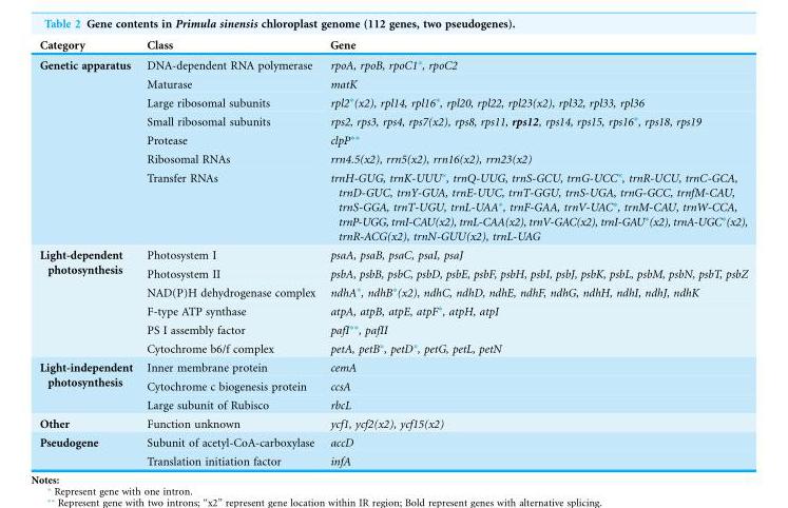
<table><thead><tr><td>Category</td><td>Class</td><td>Gene</td></tr></thead><tbody><tr><td rowspan="7">Genetic apparatus</td><td>DNA-dependent RNA polymerase</td><td>rpoA, rpoB, rpoC1*, rpoC2</td></tr><tr><td>Maturase</td><td>matK</td></tr><tr><td>Large ribosomal subunits</td><td>rpl2*(x2), rpl14, rpl16*, rpl20, rpl22, rpl23(x2), rpl32, rpl33, rpl36</td></tr><tr><td>Small ribosomal subunits</td><td>rps2, rps3, rps4, rps7(x2), rps8, rps11, rps12, rps14, rps15, rps16*, rps18, rps19</td></tr><tr><td>Protease</td><td>clpP**</td></tr><tr><td>Ribosomal RNAs</td><td>rrn4.5(x2), rrn5(x2), rrn16(x2), rrn23(x2)</td></tr><tr><td>Transfer RNAs</td><td>trnH-GUG, trnK-UUU*, trnQ-UUG, trnS-GCU, trnG-UCC*, trnR-UCU, trnC-GCA, trnD-GUC, trnY-GUA, trnE-UUC, trnT-GGU, trnS-UGA, trnG-GCC, trnfM-CAU, trnS-GGA, trnT-UGU, trnL-UAA*, trnF-GAA, trnV-UAC*, trnM-CAU, trnW-CCA, trnP-UGG, trnI-CAU(x2), trnL-CAA(x2), trnV-GAC(x2), trnI-GAU*(x2), trnA-UGC*(x2), trnR-ACG(x2), trnN-GUU(x2), trnL-UAG</td></tr><tr><td rowspan="6">Light-dependent photosynthesis</td><td>Photosystem I</td><td>psaA, psaB, psaC, psaI, psaJ</td></tr><tr><td>Photosystem II</td><td>psbA, psbB, psbC, psbD, psbE, psbF, psbH, psbI, psbJ, psbK, psbL, psbM, psbN, psbT, psbZ</td></tr><tr><td>NAD(P)H dehydrogenase complex</td><td>ndhA*, ndhB*(x2), ndhC, ndhD, ndhE, ndhF, ndhG, ndhH, ndhI, ndhJ, ndhK</td></tr><tr><td>F-type ATP synthase</td><td>atpA, atpB, atpE, atpF*, atpH, atpI</td></tr><tr><td>PS I assembly factor</td><td>pafI**, pafII</td></tr><tr><td>Cytochrome b6/f complex</td><td>petA, petB*, petD*, petG, petL, petN</td></tr><tr><td rowspan="3">Light-independent photosynthesis</td><td>Inner membrane protein</td><td>cemA</td></tr><tr><td>Cytochrome c biogenesis protein</td><td>ccsA</td></tr><tr><td>Large subunit of Rubisco</td><td>rbcL</td></tr><tr><td>Other</td><td>Function unknown</td><td>ycf1, ycf2(x2), ycf15(x2)</td></tr><tr><td rowspan="2">Pseudogene</td><td>Subunit of acetyl-CoA-carboxylase</td><td>accD</td></tr><tr><td>Translation initiation factor</td><td>infA</td></tr></tbody></table>